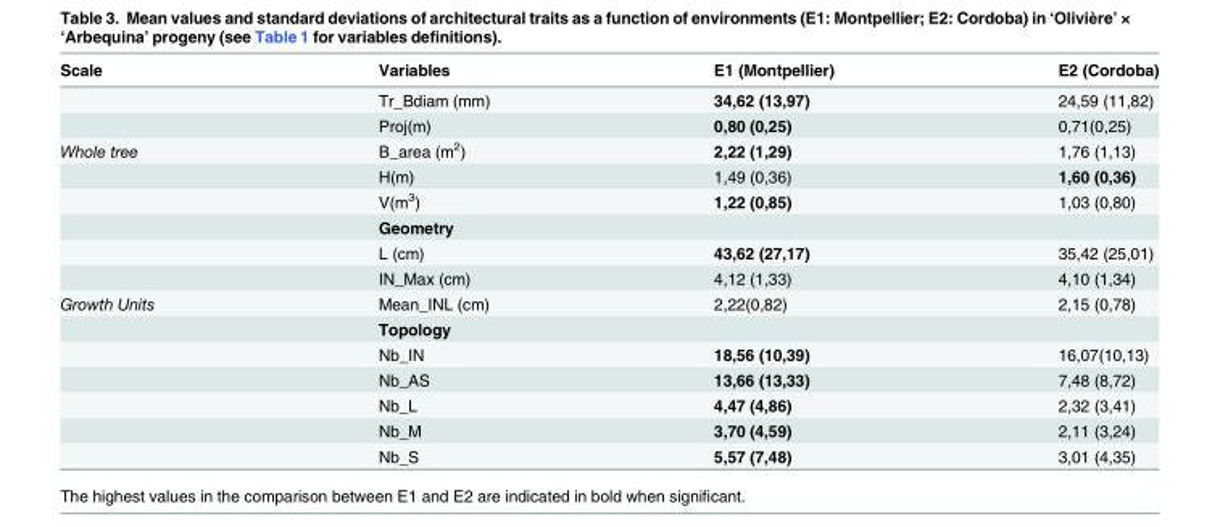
<table><thead><tr><td>Scale</td><td>Variables</td><td>E1 (Montpellier)</td><td>E2 (Cordoba)</td></tr></thead><tbody><tr><td></td><td>Tr_Bdiam (mm)</td><td>34,62 (13,97)</td><td>24,59 (11,82)</td></tr><tr><td></td><td>Proj(m)</td><td>0,80 (0,25)</td><td>0,71(0,25)</td></tr><tr><td rowspan="6">Whole tree</td><td>B_area (m<sup>2</sup>)</td><td>2,22 (1,29)</td><td>1,76 (1,13)</td></tr><tr><td>H(m)</td><td>1,49 (0,36)</td><td>1,60 (0,36)</td></tr><tr><td>V(m<sup>3</sup>)</td><td>1,22 (0,85)</td><td>1,03 (0,80)</td></tr><tr><td>Geometry</td><td></td><td></td></tr><tr><td>L (cm)</td><td>43,62 (27,17)</td><td>35,42 (25,01)</td></tr><tr><td>IN_Max (cm)</td><td>4,12 (1,33)</td><td>4,10 (1,34)</td></tr><tr><td rowspan="7">Growth Units</td><td>Mean_INL (cm)</td><td>2,22(0,82)</td><td>2,15 (0,78)</td></tr><tr><td>Topology</td><td></td><td></td></tr><tr><td>Nb_IN</td><td>18,56 (10,39)</td><td>16,07(10,13)</td></tr><tr><td>Nb_AS</td><td>13,66 (13,33)</td><td>7,48 (8,72)</td></tr><tr><td>Nb_L</td><td>4,47 (4,86)</td><td>2,32 (3,41)</td></tr><tr><td>Nb_M</td><td>3,70 (4,59)</td><td>2,11 (3,24)</td></tr><tr><td>Nb_S</td><td>5,57 (7,48)</td><td>3,01 (4,35)</td></tr></tbody></table>